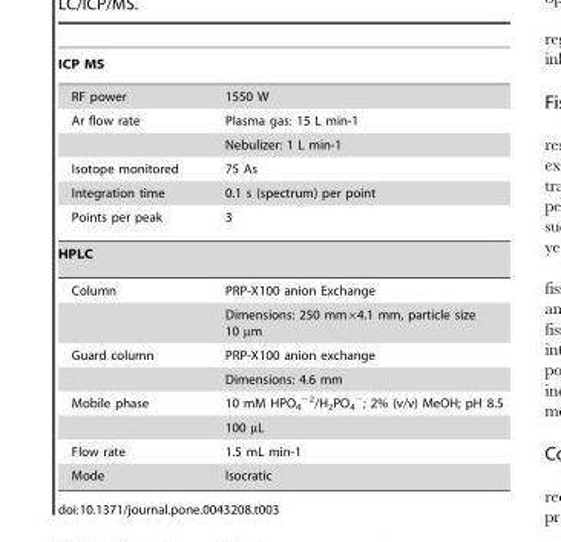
<table><thead><tr><td>ICP MS</td><td></td></tr></thead><tbody><tr><td>RF power</td><td>1550 W</td></tr><tr><td rowspan="2">Ar flow rate</td><td>Plasma gas: 15 L min-1</td></tr><tr><td>Nebulizer: 1 L min-1</td></tr><tr><td>Isotope monitored</td><td>75 As</td></tr><tr><td>Integration time</td><td>0.1 s (spectrum) per point</td></tr><tr><td>Points per peak</td><td>3</td></tr><tr><td colspan="2">HPLC</td></tr><tr><td rowspan="2">Column</td><td>PRP-X100 anion Exchange</td></tr><tr><td>Dimensions: 250 mm×4.1 mm, particle size 10 µm</td></tr><tr><td rowspan="2">Guard column</td><td>PRP-X100 anion exchange</td></tr><tr><td>Dimensions: 4.6 mm</td></tr><tr><td rowspan="2">Mobile phase</td><td>10 mM HPO<sub>4</sub> <sup>−2</sup>/H<sub>2</sub>PO<sub>4</sub> <sup>−</sup>; 2% (v/v) MeOH; pH 8.5</td></tr><tr><td>100 µL</td></tr><tr><td>Flow rate</td><td>1.5 mL min-1</td></tr><tr><td>Mode</td><td>Isocratic</td></tr></tbody></table>